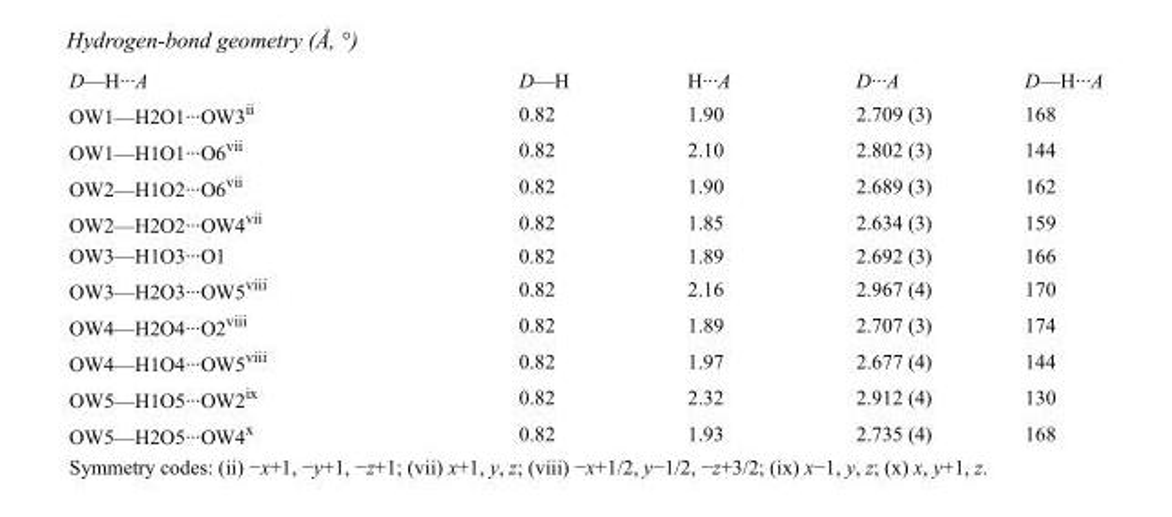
<table><tbody><tr><td>D—H···A</td><td>D—H</td><td>H···A</td><td>D···A</td><td>D—H···A</td></tr><tr><td>OW1—H2O1···OW3<sup>ii</sup></td><td>0.82</td><td>1.90</td><td>2.709 (3)</td><td>168</td></tr><tr><td>OW1—H1O1···O6<sup>vii</sup></td><td>0.82</td><td>2.10</td><td>2.802 (3)</td><td>144</td></tr><tr><td>OW2—H1O2···O6<sup>vii</sup></td><td>0.82</td><td>1.90</td><td>2.689 (3)</td><td>162</td></tr><tr><td>OW2—H2O2···OW4<sup>vii</sup></td><td>0.82</td><td>1.85</td><td>2.634 (3)</td><td>159</td></tr><tr><td>OW3—H1O3···O1</td><td>0.82</td><td>1.89</td><td>2.692 (3)</td><td>166</td></tr><tr><td>OW3—H2O3···OW5<sup>viii</sup></td><td>0.82</td><td>2.16</td><td>2.967 (4)</td><td>170</td></tr><tr><td>OW4—H2O4···O2<sup>viii</sup></td><td>0.82</td><td>1.89</td><td>2.707 (3)</td><td>174</td></tr><tr><td>OW4—H1O4···OW5<sup>viii</sup></td><td>0.82</td><td>1.97</td><td>2.677 (4)</td><td>144</td></tr><tr><td>OW5—H1O5···OW2<sup>ix</sup></td><td>0.82</td><td>2.32</td><td>2.912 (4)</td><td>130</td></tr><tr><td>OW5—H2O5···OW4<sup>x</sup></td><td>0.82</td><td>1.93</td><td>2.735 (4)</td><td>168</td></tr></tbody></table>